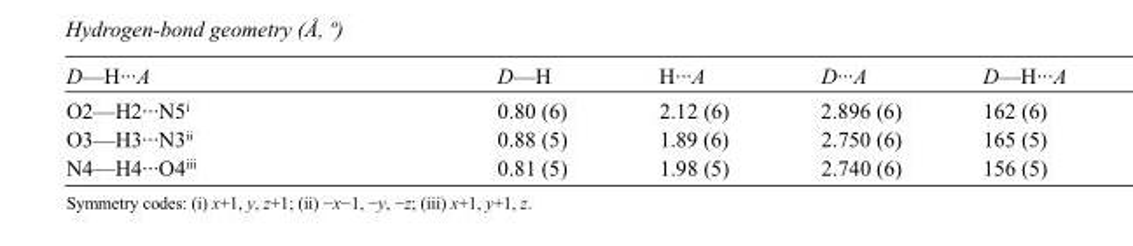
<table><tbody><tr><td>D—H···A</td><td>D—H</td><td>H···A</td><td>D···A</td><td>D—H···A</td></tr><tr><td>O2—H2···N5<sup>i</sup></td><td>0.80 (6)</td><td>2.12 (6)</td><td>2.896 (6)</td><td>162 (6)</td></tr><tr><td>O3—H3···N3<sup>ii</sup></td><td>0.88 (5)</td><td>1.89 (6)</td><td>2.750 (6)</td><td>165 (5)</td></tr><tr><td>N4—H4···O4<sup>iii</sup></td><td>0.81 (5)</td><td>1.98 (5)</td><td>2.740 (6)</td><td>156 (5)</td></tr></tbody></table>